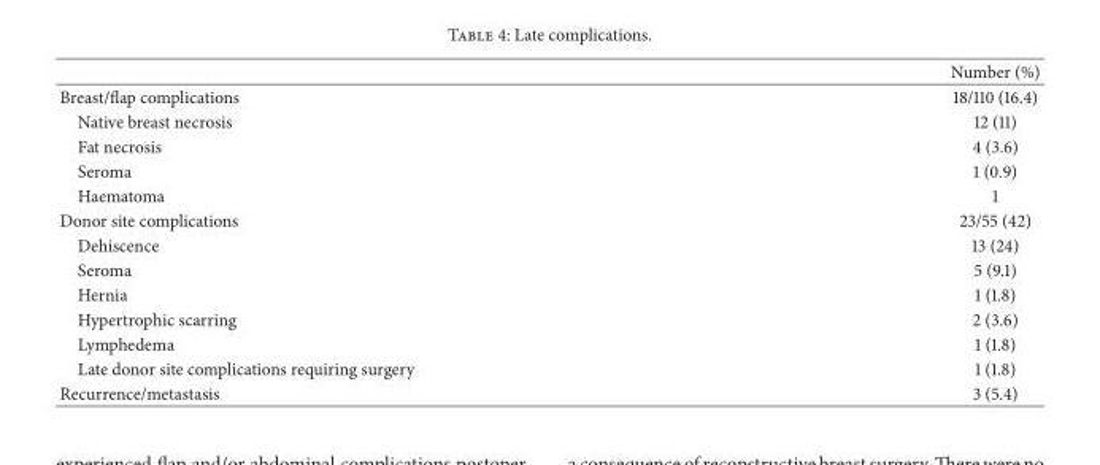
<table><thead><tr><td></td><td>Number (%)</td></tr></thead><tbody><tr><td>Breast/flap complications</td><td>18/110 (16.4)</td></tr><tr><td>Native breast necrosis</td><td>12 (11)</td></tr><tr><td>Fat necrosis</td><td>4 (3.6)</td></tr><tr><td>Seroma</td><td>1 (0.9)</td></tr><tr><td>Haematoma</td><td>1</td></tr><tr><td>Donor site complications</td><td>23/55 (42)</td></tr><tr><td>Dehiscence</td><td>13 (24)</td></tr><tr><td>Seroma</td><td>5 (9.1)</td></tr><tr><td>Hernia</td><td>1 (1.8)</td></tr><tr><td>Hypertrophic scarring</td><td>2 (3.6)</td></tr><tr><td>Lymphedema</td><td>1 (1.8)</td></tr><tr><td>Late donor site complications requiring surgery</td><td>1 (1.8)</td></tr><tr><td>Recurrence/metastasis</td><td>3 (5.4)</td></tr></tbody></table>